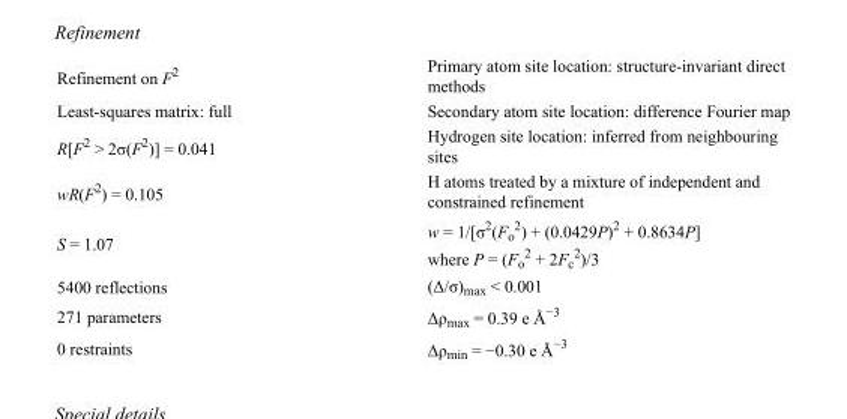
<table><tbody><tr><td>Refinement on F<sup>2</sup></td><td>Primary atom site location: structure-invariant direct methods</td></tr><tr><td>Least-squares matrix: full</td><td>Secondary atom site location: difference Fourier map</td></tr><tr><td>R[F<sup>2</sup> &gt; 2σ(F<sup>2</sup>)] = 0.041</td><td>Hydrogen site location: inferred from neighbouring sites</td></tr><tr><td>wR(F<sup>2</sup>) = 0.105</td><td>H atoms treated by a mixture of independent and constrained refinement</td></tr><tr><td>S = 1.07</td><td>w = 1/[σ<sup>2</sup>(F<sub>o</sub> <sup>2</sup>) + (0.0429P)<sup>2</sup> + 0.8634P] where P = (F<sub>o</sub> <sup>2</sup> + 2F<sub>c</sub> <sup>2</sup>)/3</td></tr><tr><td>5400 reflections</td><td>(Δ/σ)<sub>max</sub> &lt; 0.001</td></tr><tr><td>271 parameters</td><td>Δρ<sub>max</sub> = 0.39 e Å<sup>−3</sup></td></tr><tr><td>0 restraints</td><td>Δρ<sub>min</sub> = −0.30 e Å<sup>−3</sup></td></tr></tbody></table>